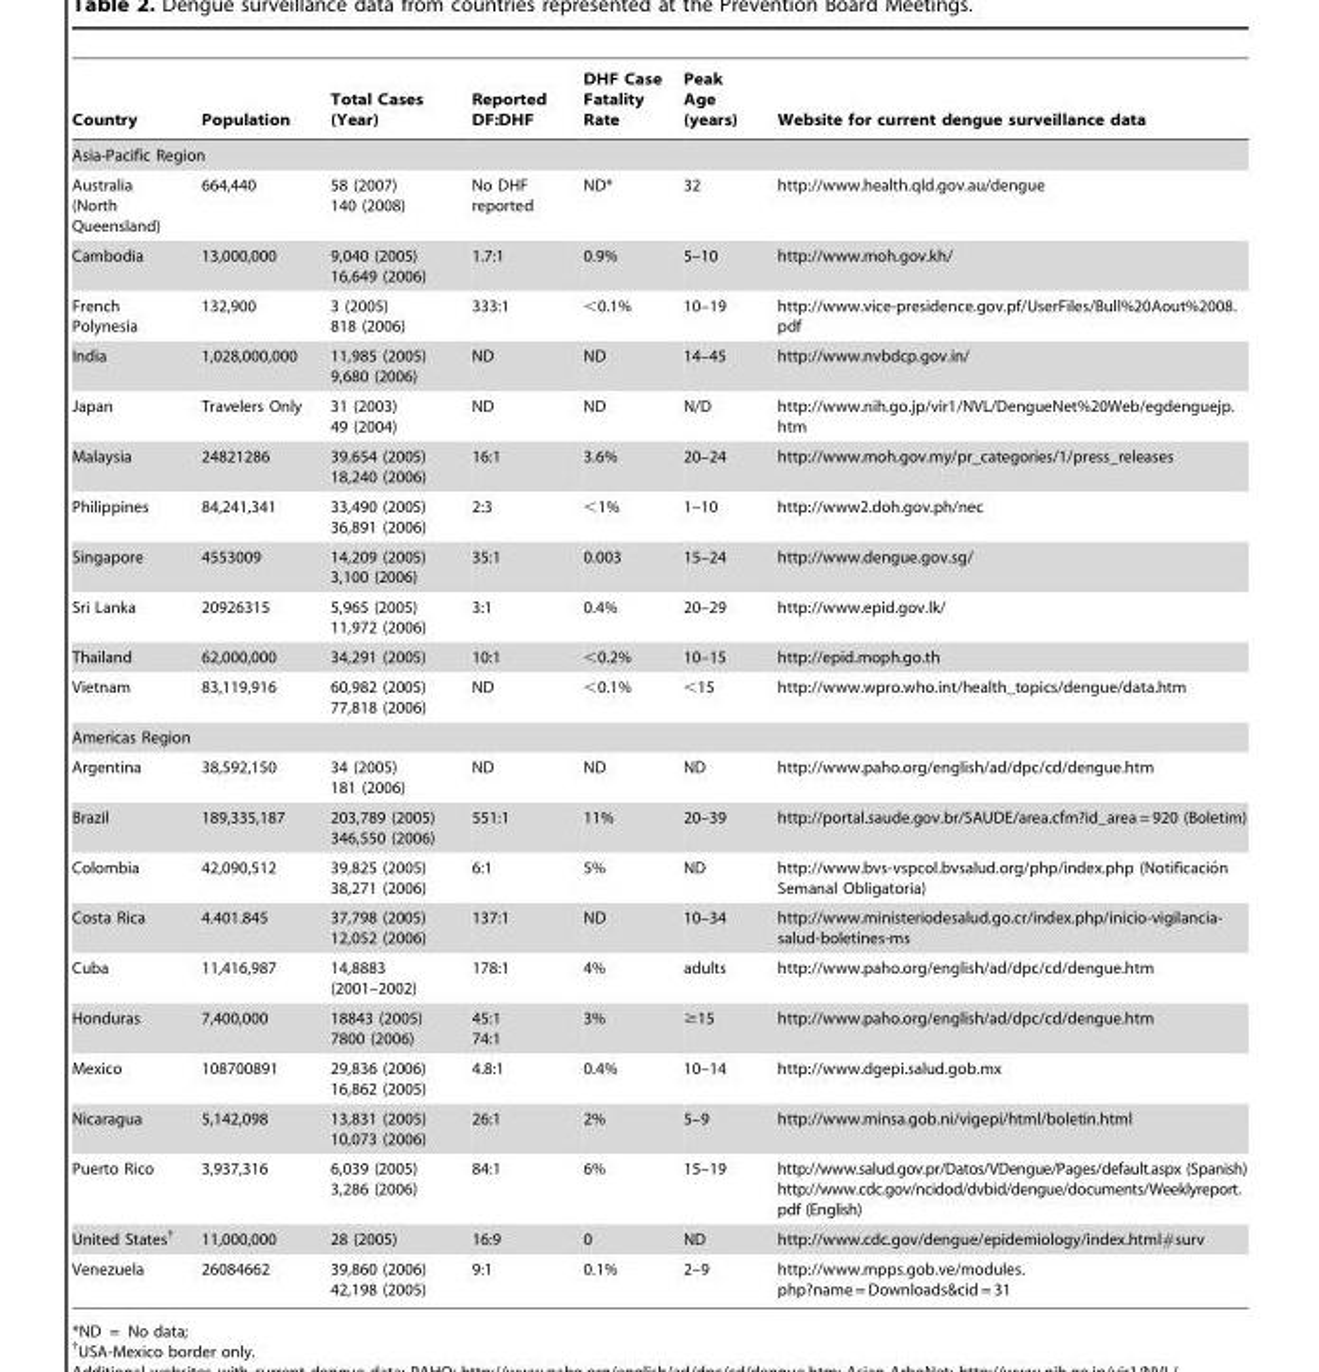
<table><thead><tr><td>Country</td><td>Population</td><td>Total Cases (Year)</td><td>Reported DF:DHF</td><td>DHF Case Fatality Rate</td><td>Peak Age (years)</td><td>Website for current dengue surveillance data</td></tr></thead><tbody><tr><td colspan="7">Asia-Pacific Region</td></tr><tr><td>Australia (North Queensland)</td><td>664,440</td><td>58 (2007) 140 (2008)</td><td>No DHF reported</td><td>ND*</td><td>32</td><td>http://www.health.qld.gov.au/dengue</td></tr><tr><td>Cambodia</td><td>13,000,000</td><td>9,040 (2005) 16,649 (2006)</td><td>1.7:1</td><td>0.9%</td><td>5–10</td><td>http://www.moh.gov.kh/</td></tr><tr><td>French Polynesia</td><td>132,900</td><td>3 (2005) 818 (2006)</td><td>333:1</td><td>&lt;0.1%</td><td>10–19</td><td>http://www.vice-presidence.gov.pf/UserFiles/Bull%20Aout%2008. pdf</td></tr><tr><td>India</td><td>1,028,000,000</td><td>11,985 (2005) 9,680 (2006)</td><td>ND</td><td>ND</td><td>14–45</td><td>http://www.nvbdcp.gov.in/</td></tr><tr><td>Japan</td><td>Travelers Only</td><td>31 (2003) 49 (2004)</td><td>ND</td><td>ND</td><td>N/D</td><td>http://www.nih.go.jp/vir1/NVL/DengueNet%20Web/egdenguejp. htm</td></tr><tr><td>Malaysia</td><td>24821286</td><td>39,654 (2005) 18,240 (2006)</td><td>16:1</td><td>3.6%</td><td>20–24</td><td>http://www.moh.gov.my/pr_categories/1/press_releases</td></tr><tr><td>Philippines</td><td>84,241,341</td><td>33,490 (2005) 36,891 (2006)</td><td>2:3</td><td>&lt;1%</td><td>1–10</td><td>http://www2.doh.gov.ph/nec</td></tr><tr><td>Singapore</td><td>4553009</td><td>14,209 (2005) 3,100 (2006)</td><td>35:1</td><td>0.003</td><td>15–24</td><td>http://www.dengue.gov.sg/</td></tr><tr><td>Sri Lanka</td><td>20926315</td><td>5,965 (2005) 11,972 (2006)</td><td>3:1</td><td>0.4%</td><td>20–29</td><td>http://www.epid.gov.lk/</td></tr><tr><td>Thailand</td><td>62,000,000</td><td>34,291 (2005)</td><td>10:1</td><td>&lt;0.2%</td><td>10–15</td><td>http://epid.moph.go.th</td></tr><tr><td>Vietnam</td><td>83,119,916</td><td>60,982 (2005) 77,818 (2006)</td><td>ND</td><td>&lt;0.1%</td><td>&lt;15</td><td>http://www.wpro.who.int/health_topics/dengue/data.htm</td></tr><tr><td colspan="7">Americas Region</td></tr><tr><td>Argentina</td><td>38,592,150</td><td>34 (2005) 181 (2006)</td><td>ND</td><td>ND</td><td>ND</td><td>http://www.paho.org/english/ad/dpc/cd/dengue.htm</td></tr><tr><td>Brazil</td><td>189,335,187</td><td>203,789 (2005) 346,550 (2006)</td><td>551:1</td><td>11%</td><td>20–39</td><td>http://portal.saude.gov.br/SAUDE/area.cfm?id_area = 920 (Boletim)</td></tr><tr><td>Colombia</td><td>42,090,512</td><td>39,825 (2005) 38,271 (2006)</td><td>6:1</td><td>5%</td><td>ND</td><td>http://www.bvs-vspcol.bvsalud.org/php/index.php (Notificacio´n Semanal Obligatoria)</td></tr><tr><td>Costa Rica</td><td>4.401.845</td><td>37,798 (2005) 12,052 (2006)</td><td>137:1</td><td>ND</td><td>10–34</td><td>http://www.ministeriodesalud.go.cr/index.php/inicio-vigilancia- salud-boletines-ms</td></tr><tr><td>Cuba</td><td>11,416,987</td><td>14,8883 (2001–2002)</td><td>178:1</td><td>4%</td><td>adults</td><td>http://www.paho.org/english/ad/dpc/cd/dengue.htm</td></tr><tr><td>Honduras</td><td>7,400,000</td><td>18843 (2005) 7800 (2006)</td><td>45:1 74:1</td><td>3%</td><td>≥15</td><td>http://www.paho.org/english/ad/dpc/cd/dengue.htm</td></tr><tr><td>Mexico</td><td>108700891</td><td>29,836 (2006) 16,862 (2005)</td><td>4.8:1</td><td>0.4%</td><td>10–14</td><td>http://www.dgepi.salud.gob.mx</td></tr><tr><td>Nicaragua</td><td>5,142,098</td><td>13,831 (2005) 10,073 (2006)</td><td>26:1</td><td>2%</td><td>5–9</td><td>http://www.minsa.gob.ni/vigepi/html/boletin.html</td></tr><tr><td>Puerto Rico</td><td>3,937,316</td><td>6,039 (2005) 3,286 (2006)</td><td>84:1</td><td>6%</td><td>15–19</td><td>http://www.salud.gov.pr/Datos/VDengue/Pages/default.aspx (Spanish) http://www.cdc.gov/ncidod/dvbid/dengue/documents/Weeklyreport. pdf (English)</td></tr><tr><td>United States†</td><td>11,000,000</td><td>28 (2005)</td><td>16:9</td><td>0</td><td>ND</td><td>http://www.cdc.gov/dengue/epidemiology/index.html#surv</td></tr><tr><td>Venezuela</td><td>26084662</td><td>39,860 (2006) 42,198 (2005)</td><td>9:1</td><td>0.1%</td><td>2–9</td><td>http://www.mpps.gob.ve/modules. php?name = Downloads&amp;cid = 31</td></tr></tbody></table>